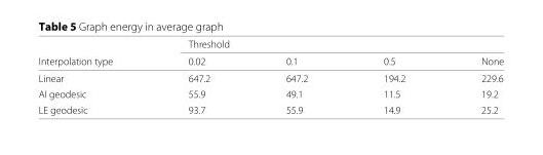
<table><thead><tr><td rowspan="2">Interpolation type</td><td colspan="4">Threshold</td></tr><tr><td>0.02</td><td>0.1</td><td>0.5</td><td>None</td></tr></thead><tbody><tr><td>Linear</td><td>647.2</td><td>647.2</td><td>194.2</td><td>229.6</td></tr><tr><td>AI geodesic</td><td>55.9</td><td>49.1</td><td>11.5</td><td>19.2</td></tr><tr><td>LE geodesic</td><td>93.7</td><td>55.9</td><td>14.9</td><td>25.2</td></tr></tbody></table>